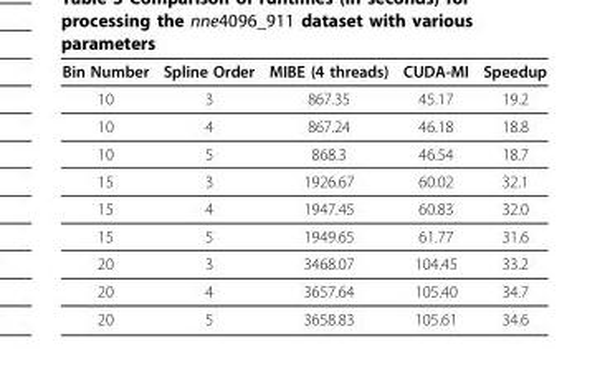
<table><thead><tr><td>Bin Number</td><td>Spline Order</td><td>MIBE (4 threads)</td><td>CUDA-MI</td><td>Speedup</td></tr></thead><tbody><tr><td>10</td><td>3</td><td>867.35</td><td>45.17</td><td>19.2</td></tr><tr><td>10</td><td>4</td><td>867.24</td><td>46.18</td><td>18.8</td></tr><tr><td>10</td><td>5</td><td>868.3</td><td>46.54</td><td>18.7</td></tr><tr><td>15</td><td>3</td><td>1926.67</td><td>60.02</td><td>32.1</td></tr><tr><td>15</td><td>4</td><td>1947.45</td><td>60.83</td><td>32.0</td></tr><tr><td>15</td><td>5</td><td>1949.65</td><td>61.77</td><td>31.6</td></tr><tr><td>20</td><td>3</td><td>3468.07</td><td>104.45</td><td>33.2</td></tr><tr><td>20</td><td>4</td><td>3657.64</td><td>105.40</td><td>34.7</td></tr><tr><td>20</td><td>5</td><td>3658.83</td><td>105.61</td><td>34.6</td></tr></tbody></table>